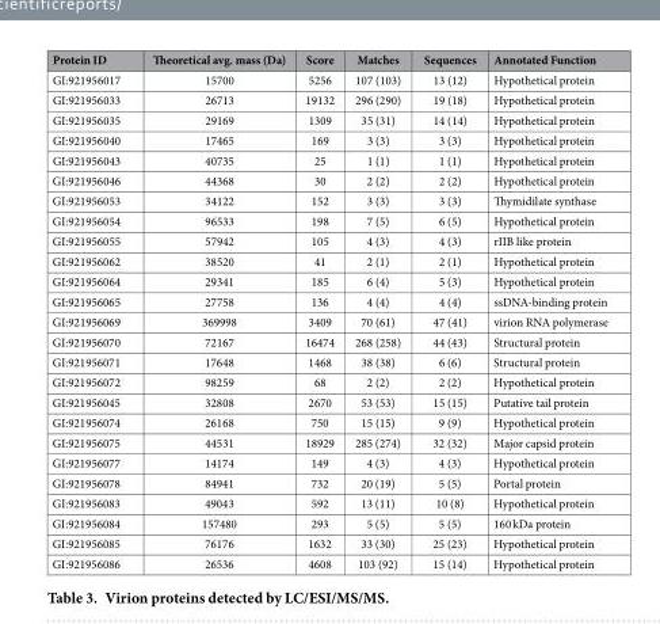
<table><thead><tr><td>Protein ID</td><td>Theoretical avg. mass (Da)</td><td>Score</td><td>Matches</td><td>Sequences</td><td>Annotated Function</td></tr></thead><tbody><tr><td>GI:921956017</td><td>15700</td><td>5256</td><td>107 (103)</td><td>13 (12)</td><td>Hypothetical protein</td></tr><tr><td>GI:921956033</td><td>26713</td><td>19132</td><td>296 (290)</td><td>19 (18)</td><td>Hypothetical protein</td></tr><tr><td>GI:921956035</td><td>29169</td><td>1309</td><td>35 (31)</td><td>14 (14)</td><td>Hypothetical protein</td></tr><tr><td>GI:921956040</td><td>17465</td><td>169</td><td>3 (3)</td><td>3 (3)</td><td>Hypothetical protein</td></tr><tr><td>GI:921956043</td><td>40735</td><td>25</td><td>1 (1)</td><td>1 (1)</td><td>Hypothetical protein</td></tr><tr><td>GI:921956046</td><td>44368</td><td>30</td><td>2 (2)</td><td>2 (2)</td><td>Hypothetical protein</td></tr><tr><td>GI:921956053</td><td>34122</td><td>152</td><td>3 (3)</td><td>3 (3)</td><td>Thymidilate synthase</td></tr><tr><td>GI:921956054</td><td>96533</td><td>198</td><td>7 (5)</td><td>6 (5)</td><td>Hypothetical protein</td></tr><tr><td>GI:921956055</td><td>57942</td><td>105</td><td>4 (3)</td><td>4 (3)</td><td>rIIB like protein</td></tr><tr><td>GI:921956062</td><td>38520</td><td>41</td><td>2 (1)</td><td>2 (1)</td><td>Hypothetical protein</td></tr><tr><td>GI:921956064</td><td>29341</td><td>185</td><td>6 (4)</td><td>5 (3)</td><td>Hypothetical protein</td></tr><tr><td>GI:921956065</td><td>27758</td><td>136</td><td>4 (4)</td><td>4 (4)</td><td>ssDNA-binding protein</td></tr><tr><td>GI:921956069</td><td>369998</td><td>3409</td><td>70 (61)</td><td>47 (41)</td><td>virion RNA polymerase</td></tr><tr><td>GI:921956070</td><td>72167</td><td>16474</td><td>268 (258)</td><td>44 (43)</td><td>Structural protein</td></tr><tr><td>GI:921956071</td><td>17648</td><td>1468</td><td>38 (38)</td><td>6 (6)</td><td>Structural protein</td></tr><tr><td>GI:921956072</td><td>98259</td><td>68</td><td>2 (2)</td><td>2 (2)</td><td>Hypothetical protein</td></tr><tr><td>GI:921956045</td><td>32808</td><td>2670</td><td>53 (53)</td><td>15 (15)</td><td>Putative tail protein</td></tr><tr><td>GI:921956074</td><td>26168</td><td>750</td><td>15 (15)</td><td>9 (9)</td><td>Hypothetical protein</td></tr><tr><td>GI:921956075</td><td>44531</td><td>18929</td><td>285 (274)</td><td>32 (32)</td><td>Major capsid protein</td></tr><tr><td>GI:921956077</td><td>14174</td><td>149</td><td>4 (3)</td><td>4 (3)</td><td>Hypothetical protein</td></tr><tr><td>GI:921956078</td><td>84941</td><td>732</td><td>20 (19)</td><td>5 (5)</td><td>Portal protein</td></tr><tr><td>GI:921956083</td><td>49043</td><td>592</td><td>13 (11)</td><td>10 (8)</td><td>Hypothetical protein</td></tr><tr><td>GI:921956084</td><td>157480</td><td>293</td><td>5 (5)</td><td>5 (5)</td><td>160 kDa protein</td></tr><tr><td>GI:921956085</td><td>76176</td><td>1632</td><td>33 (30)</td><td>25 (23)</td><td>Hypothetical protein</td></tr><tr><td>GI:921956086</td><td>26536</td><td>4608</td><td>103 (92)</td><td>15 (14)</td><td>Hypothetical protein</td></tr></tbody></table>